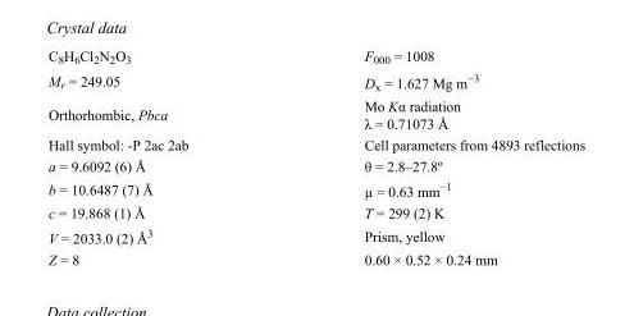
<table><tbody><tr><td>C<sub>8</sub>H<sub>6</sub>Cl<sub>2</sub>N<sub>2</sub>O<sub>3</sub></td><td>F<sub>000</sub> = 1008</td></tr><tr><td>M<sub>r</sub> = 249.05</td><td>D<sub>x</sub> = 1.627 Mg m<sup>−3</sup></td></tr><tr><td>Orthorhombic, Pbca</td><td>Mo Kα radiation λ = 0.71073 Å</td></tr><tr><td>Hall symbol: -P 2ac 2ab</td><td>Cell parameters from 4893 reflections</td></tr><tr><td>a = 9.6092 (6) Å</td><td>θ = 2.8–27.8º</td></tr><tr><td>b = 10.6487 (7) Å</td><td>µ = 0.63 mm<sup>−1</sup></td></tr><tr><td>c = 19.868 (1) Å</td><td>T = 299 (2) K</td></tr><tr><td>V = 2033.0 (2) Å<sup>3</sup></td><td>Prism, yellow</td></tr><tr><td>Z = 8</td><td>0.60 × 0.52 × 0.24 mm</td></tr></tbody></table>